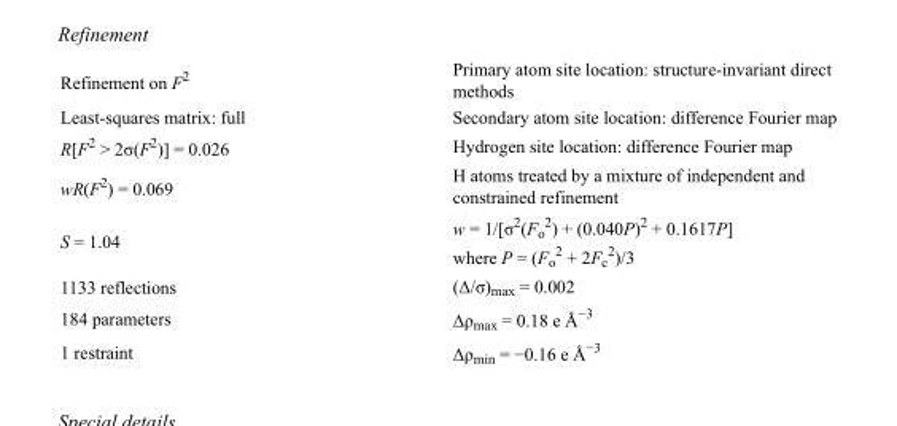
<table><tbody><tr><td>Refinement on F<sup>2</sup></td><td>Primary atom site location: structure-invariant direct methods</td></tr><tr><td>Least-squares matrix: full</td><td>Secondary atom site location: difference Fourier map</td></tr><tr><td>R[F<sup>2</sup> &gt; 2σ(F<sup>2</sup>)] = 0.026</td><td>Hydrogen site location: difference Fourier map</td></tr><tr><td>wR(F<sup>2</sup>) = 0.069</td><td>H atoms treated by a mixture of independent and constrained refinement</td></tr><tr><td>S = 1.04</td><td>w = 1/[σ<sup>2</sup>(F<sub>o</sub> <sup>2</sup>) + (0.040P)<sup>2</sup> + 0.1617P] where P = (F<sub>o</sub> <sup>2</sup> + 2F<sub>c</sub> <sup>2</sup>)/3</td></tr><tr><td>1133 reflections</td><td>(Δ/σ)<sub>max</sub> = 0.002</td></tr><tr><td>184 parameters</td><td>Δρ<sub>max</sub> = 0.18 e Å<sup>−3</sup></td></tr><tr><td>1 restraint</td><td>Δρ<sub>min</sub> = −0.16 e Å<sup>−3</sup></td></tr></tbody></table>